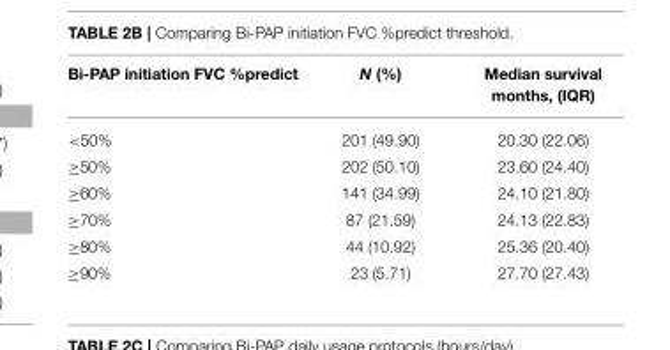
<table><thead><tr><td>Bi-PAP initiation FVC %predict</td><td>N (%)</td><td>Median survival months, (IQR)</td></tr></thead><tbody><tr><td>&lt;50%</td><td>201 (49.90)</td><td>20.30 (22.06)</td></tr><tr><td>≥50%</td><td>202 (50.10)</td><td>23.60 (24.40)</td></tr><tr><td>≥60%</td><td>141 (34.99)</td><td>24.10 (21.80)</td></tr><tr><td>≥70%</td><td>87 (21.59)</td><td>24.13 (22.83)</td></tr><tr><td>≥80%</td><td>44 (10.92)</td><td>25.36 (20.40)</td></tr><tr><td>≥90%</td><td>23 (5.71)</td><td>27.70 (27.43)</td></tr></tbody></table>